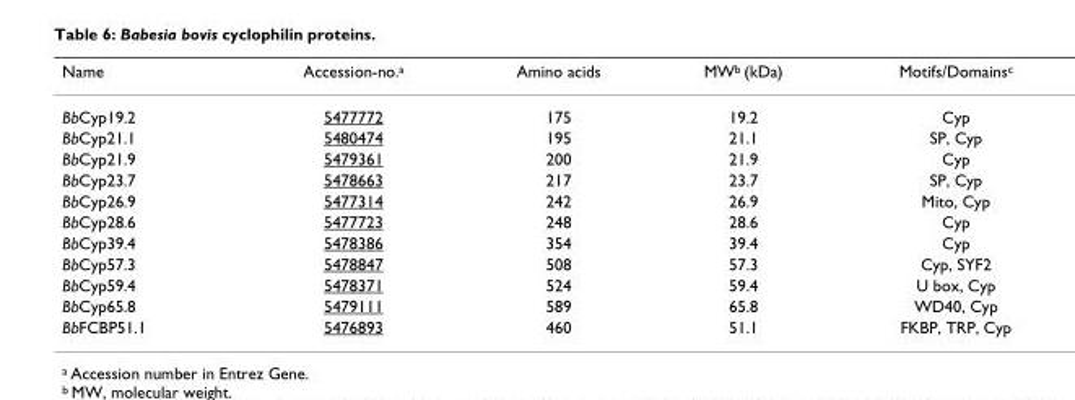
<table><thead><tr><td>Name</td><td>Accession-no.<sup>a</sup></td><td>Amino acids</td><td>MW<sup>b</sup> (kDa)</td><td>Motifs/Domains<sup>c</sup></td></tr></thead><tbody><tr><td>BbCyp19.2</td><td>5477772</td><td>175</td><td>19.2</td><td>Cyp</td></tr><tr><td>BbCyp21.1</td><td>5480474</td><td>195</td><td>21.1</td><td>SP, Cyp</td></tr><tr><td>BbCyp21.9</td><td>5479361</td><td>200</td><td>21.9</td><td>Cyp</td></tr><tr><td>BbCyp23.7</td><td>5478663</td><td>217</td><td>23.7</td><td>SP, Cyp</td></tr><tr><td>BbCyp26.9</td><td>5477314</td><td>242</td><td>26.9</td><td>Mito, Cyp</td></tr><tr><td>BbCyp28.6</td><td>5477723</td><td>248</td><td>28.6</td><td>Cyp</td></tr><tr><td>BbCyp39.4</td><td>5478386</td><td>354</td><td>39.4</td><td>Cyp</td></tr><tr><td>BbCyp57.3</td><td>5478847</td><td>508</td><td>57.3</td><td>Cyp, SYF2</td></tr><tr><td>BbCyp59.4</td><td>5478371</td><td>524</td><td>59.4</td><td>U box, Cyp</td></tr><tr><td>BbCyp65.8</td><td>5479111</td><td>589</td><td>65.8</td><td>WD40, Cyp</td></tr><tr><td>BbFCBP51.1</td><td>5476893</td><td>460</td><td>51.1</td><td>FKBP, TRP, Cyp</td></tr></tbody></table>